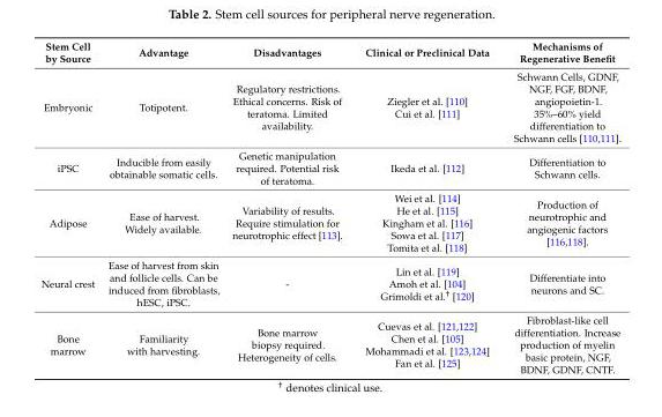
<table><thead><tr><td>Stem Cell by Source</td><td>Advantage</td><td>Disadvantages</td><td>Clinical or Preclinical Data</td><td>Mechanisms of Regenerative Benefit</td></tr></thead><tbody><tr><td>Embryonic</td><td>Totipotent.</td><td>Regulatory restrictions. Ethical concerns. Risk of teratoma. Limited availability.</td><td>Ziegler et al. [110] Cui et al. [111]</td><td>Schwann Cells, GDNF, NGF, FGF, BDNF, angiopoietin-1. 35%–60% yield differentiation to Schwann cells [110,111].</td></tr><tr><td>iPSC</td><td>Inducible from easily obtainable somatic cells.</td><td>Genetic manipulation required. Potential risk of teratoma.</td><td>Ikeda et al. [112]</td><td>Differentiation to Schwann cells.</td></tr><tr><td>Adipose</td><td>Ease of harvest. Widely available.</td><td>Variability of results. Require stimulation for neurotrophic effect [113].</td><td>Wei et al. [114] He et al. [115] Kingham et al. [116] Sowa et al. [117] Tomita et al. [118]</td><td>Production of neurotrophic and angiogenic factors [116,118].</td></tr><tr><td>Neural crest</td><td>Ease of harvest from skin and follicle cells. Can be induced from fibroblasts, hESC, iPSC.</td><td>-</td><td>Lin et al. [119] Amoh et al. [104] Grimoldi et al.<sup>†</sup> [120]</td><td>Differentiate into neurons and SC.</td></tr><tr><td>Bone marrow</td><td>Familiarity with harvesting.</td><td>Bone marrow biopsy required. Heterogeneity of cells.</td><td>Cuevas et al. [121,122] Chen et al. [105] Mohammadi et al. [123,124] Fan et al. [125]</td><td>Fibroblast-like cell differentiation. Increase production of myelin basic protein, NGF, BDNF, GDNF, CNTF.</td></tr></tbody></table>